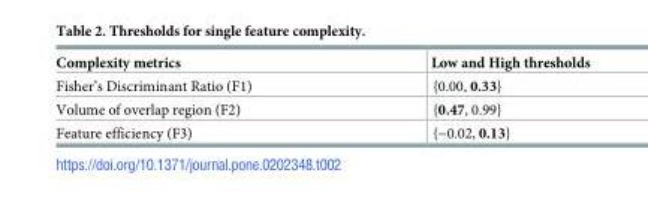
<table><thead><tr><td>Complexity metrics</td><td>Low and High thresholds</td></tr></thead><tbody><tr><td>Fisher’s Discriminant Ratio (F1)</td><td>{0.00, 0.33}</td></tr><tr><td>Volume of overlap region (F2)</td><td>{0.47, 0.99}</td></tr><tr><td>Feature efficiency (F3)</td><td>{−0.02, 0.13}</td></tr></tbody></table>